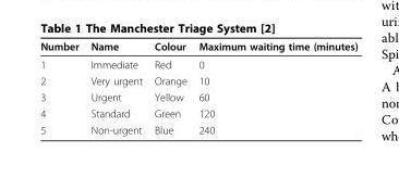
<table><thead><tr><td>Number</td><td>Name</td><td>Colour</td><td>Maximum waiting time (minutes)</td></tr></thead><tbody><tr><td>1</td><td>Immediate</td><td>Red</td><td>0</td></tr><tr><td>2</td><td>Very urgent</td><td>Orange</td><td>10</td></tr><tr><td>3</td><td>Urgent</td><td>Yellow</td><td>60</td></tr><tr><td>4</td><td>Standard</td><td>Green</td><td>120</td></tr><tr><td>5</td><td>Non-urgent</td><td>Blue</td><td>240</td></tr></tbody></table>